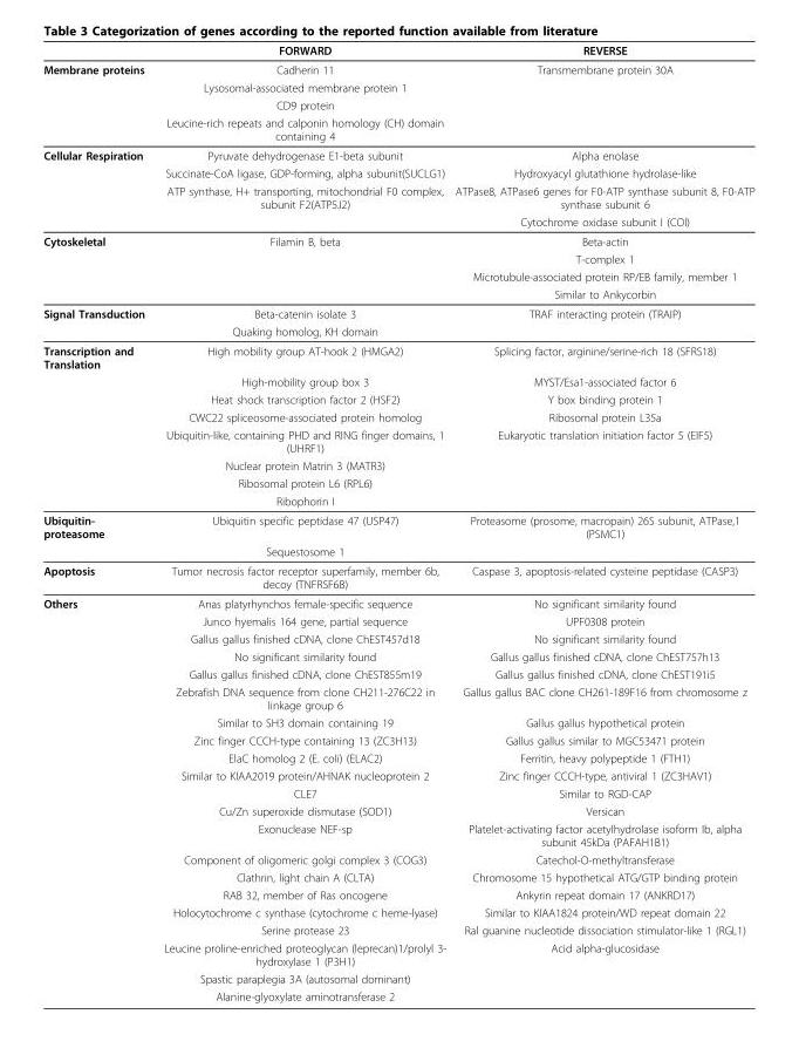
<table><thead><tr><td></td><td>FORWARD</td><td>REVERSE</td></tr></thead><tbody><tr><td rowspan="4">Membrane proteins</td><td>Cadherin 11</td><td>Transmembrane protein 30A</td></tr><tr><td>Lysosomal-associated membrane protein 1</td><td></td></tr><tr><td>CD9 protein</td><td></td></tr><tr><td>Leucine-rich repeats and calponin homology (CH) domain containing 4</td><td></td></tr><tr><td rowspan="4">Cellular Respiration</td><td>Pyruvate dehydrogenase E1-beta subunit</td><td>Alpha enolase</td></tr><tr><td>Succinate-CoA ligase, GDP-forming, alpha subunit(SUCLG1)</td><td>Hydroxyacyl glutathione hydrolase-like</td></tr><tr><td>ATP synthase, H+ transporting, mitochondrial F0 complex, subunit F2(ATP5J2)</td><td>ATPase8, ATPase6 genes for F0-ATP synthase subunit 8, F0-ATP synthase subunit 6</td></tr><tr><td></td><td>Cytochrome oxidase subunit I (COI)</td></tr><tr><td rowspan="4">Cytoskeletal</td><td>Filamin B, beta</td><td>Beta-actin</td></tr><tr><td></td><td>T-complex 1</td></tr><tr><td></td><td>Microtubule-associated protein RP/EB family, member 1</td></tr><tr><td></td><td>Similar to Ankycorbin</td></tr><tr><td rowspan="2">Signal Transduction</td><td>Beta-catenin isolate 3</td><td>TRAF interacting protein (TRAIP)</td></tr><tr><td>Quaking homolog, KH domain</td><td></td></tr><tr><td rowspan="8">Transcription and Translation</td><td>High mobility group AT-hook 2 (HMGA2)</td><td>Splicing factor, arginine/serine-rich 18 (SFRS18)</td></tr><tr><td>High-mobility group box 3</td><td>MYST/Esa1-associated factor 6</td></tr><tr><td>Heat shock transcription factor 2 (HSF2)</td><td>Y box binding protein 1</td></tr><tr><td>CWC22 spliceosome-associated protein homolog</td><td>Ribosomal protein L35a</td></tr><tr><td>Ubiquitin-like, containing PHD and RING finger domains, 1 (UHRF1)</td><td>Eukaryotic translation initiation factor 5 (EIF5)</td></tr><tr><td>Nuclear protein Matrin 3 (MATR3)</td><td></td></tr><tr><td>Ribosomal protein L6 (RPL6)</td><td></td></tr><tr><td>Ribophorin I</td><td></td></tr><tr><td rowspan="2">Ubiquitin- proteasome</td><td>Ubiquitin specific peptidase 47 (USP47)</td><td>Proteasome (prosome, macropain) 26S subunit, ATPase,1 (PSMC1)</td></tr><tr><td>Sequestosome 1</td><td></td></tr><tr><td>Apoptosis</td><td>Tumor necrosis factor receptor superfamily, member 6b, decoy (TNFRSF6B)</td><td>Caspase 3, apoptosis-related cysteine peptidase (CASP3)</td></tr><tr><td rowspan="21">Others</td><td>Anas platyrhynchos female-specific sequence</td><td>No significant similarity found</td></tr><tr><td>Junco hyemalis 164 gene, partial sequence</td><td>UPF0308 protein</td></tr><tr><td>Gallus gallus finished cDNA, clone ChEST457d18</td><td>No significant similarity found</td></tr><tr><td>No significant similarity found</td><td>Gallus gallus finished cDNA, clone ChEST757h13</td></tr><tr><td>Gallus gallus finished cDNA, clone ChEST855m19</td><td>Gallus gallus finished cDNA, clone ChEST191i5</td></tr><tr><td>Zebrafish DNA sequence from clone CH211-276C22 in linkage group 6</td><td>Gallus gallus BAC clone CH261-189F16 from chromosome z</td></tr><tr><td>Similar to SH3 domain containing 19</td><td>Gallus gallus hypothetical protein</td></tr><tr><td>Zinc finger CCCH-type containing 13 (ZC3H13)</td><td>Gallus gallus similar to MGC53471 protein</td></tr><tr><td>ElaC homolog 2 (E. coli) (ELAC2)</td><td>Ferritin, heavy polypeptide 1 (FTH1)</td></tr><tr><td>Similar to KIAA2019 protein/AHNAK nucleoprotein 2</td><td>Zinc finger CCCH-type, antiviral 1 (ZC3HAV1)</td></tr><tr><td>CLE7</td><td>Similar to RGD-CAP</td></tr><tr><td>Cu/Zn superoxide dismutase (SOD1)</td><td>Versican</td></tr><tr><td>Exonuclease NEF-sp</td><td>Platelet-activating factor acetylhydrolase isoform Ib, alpha subunit 45kDa (PAFAH1B1)</td></tr><tr><td>Component of oligomeric golgi complex 3 (COG3)</td><td>Catechol-O-methyltransferase</td></tr><tr><td>Clathrin, light chain A (CLTA)</td><td>Chromosome 15 hypothetical ATG/GTP binding protein</td></tr><tr><td>RAB 32, member of Ras oncogene</td><td>Ankyrin repeat domain 17 (ANKRD17)</td></tr><tr><td>Holocytochrome c synthase (cytochrome c heme-lyase)</td><td>Similar to KIAA1824 protein/WD repeat domain 22</td></tr><tr><td>Serine protease 23</td><td>Ral guanine nucleotide dissociation stimulator-like 1 (RGL1)</td></tr><tr><td>Leucine proline-enriched proteoglycan (leprecan)1/prolyl 3- hydroxylase 1 (P3H1)</td><td>Acid alpha-glucosidase</td></tr><tr><td>Spastic paraplegia 3A (autosomal dominant)</td><td></td></tr><tr><td>Alanine-glyoxylate aminotransferase 2</td><td></td></tr></tbody></table>